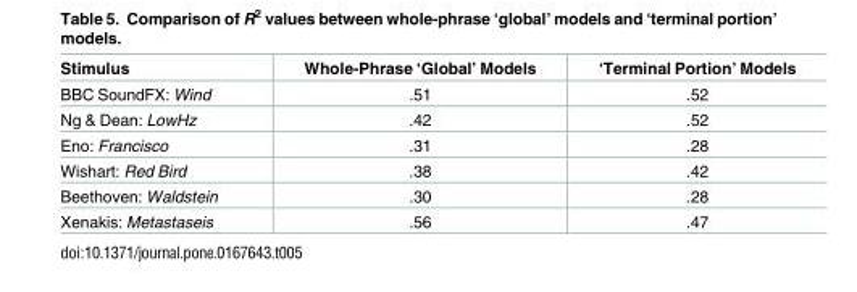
<table><thead><tr><td>Stimulus</td><td>Whole-Phrase ‘Global’ Models</td><td>‘Terminal Portion’ Models</td></tr></thead><tbody><tr><td>BBC SoundFX: Wind</td><td>.51</td><td>.52</td></tr><tr><td>Ng &amp; Dean: LowHz</td><td>.42</td><td>.52</td></tr><tr><td>Eno: Francisco</td><td>.31</td><td>.28</td></tr><tr><td>Wishart: Red Bird</td><td>.38</td><td>.42</td></tr><tr><td>Beethoven: Waldstein</td><td>.30</td><td>.28</td></tr><tr><td>Xenakis: Metastaseis</td><td>.56</td><td>.47</td></tr></tbody></table>